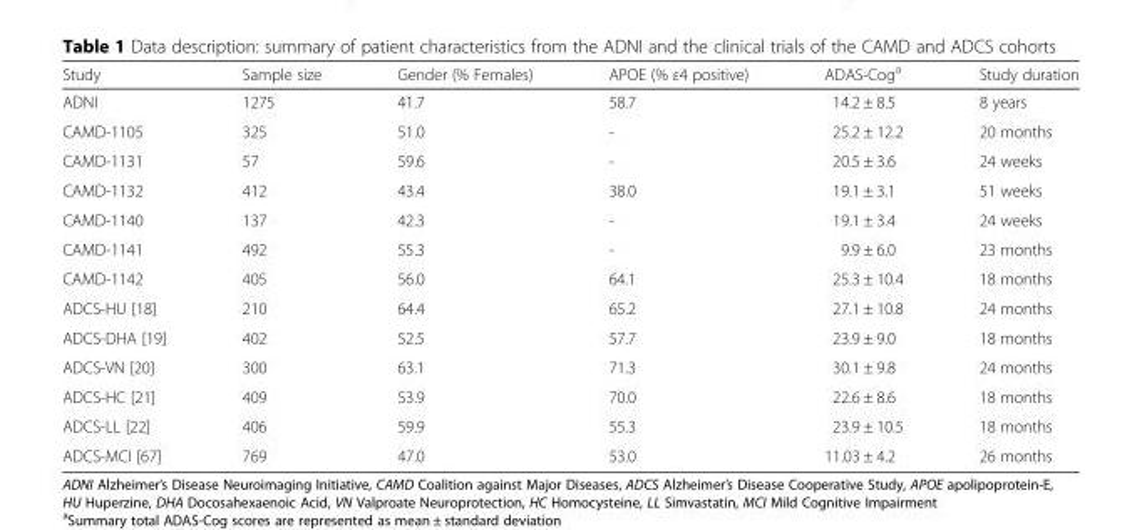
<table><thead><tr><td>Study</td><td>Sample size</td><td>Gender (% Females)</td><td>APOE (% ε4 positive)</td><td>ADAS-Cog<sup>a</sup></td><td>Study duration</td></tr></thead><tbody><tr><td>ADNI</td><td>1275</td><td>41.7</td><td>58.7</td><td>14.2 ± 8.5</td><td>8 years</td></tr><tr><td>CAMD-1105</td><td>325</td><td>51.0</td><td>-</td><td>25.2 ± 12.2</td><td>20 months</td></tr><tr><td>CAMD-1131</td><td>57</td><td>59.6</td><td>-</td><td>20.5 ± 3.6</td><td>24 weeks</td></tr><tr><td>CAMD-1132</td><td>412</td><td>43.4</td><td>38.0</td><td>19.1 ± 3.1</td><td>51 weeks</td></tr><tr><td>CAMD-1140</td><td>137</td><td>42.3</td><td>-</td><td>19.1 ± 3.4</td><td>24 weeks</td></tr><tr><td>CAMD-1141</td><td>492</td><td>55.3</td><td>-</td><td>9.9 ± 6.0</td><td>23 months</td></tr><tr><td>CAMD-1142</td><td>405</td><td>56.0</td><td>64.1</td><td>25.3 ± 10.4</td><td>18 months</td></tr><tr><td>ADCS-HU [18]</td><td>210</td><td>64.4</td><td>65.2</td><td>27.1 ± 10.8</td><td>24 months</td></tr><tr><td>ADCS-DHA [19]</td><td>402</td><td>52.5</td><td>57.7</td><td>23.9 ± 9.0</td><td>18 months</td></tr><tr><td>ADCS-VN [20]</td><td>300</td><td>63.1</td><td>71.3</td><td>30.1 ± 9.8</td><td>24 months</td></tr><tr><td>ADCS-HC [21]</td><td>409</td><td>53.9</td><td>70.0</td><td>22.6 ± 8.6</td><td>18 months</td></tr><tr><td>ADCS-LL [22]</td><td>406</td><td>59.9</td><td>55.3</td><td>23.9 ± 10.5</td><td>18 months</td></tr><tr><td>ADCS-MCI [67]</td><td>769</td><td>47.0</td><td>53.0</td><td>11.03 ± 4.2</td><td>26 months</td></tr></tbody></table>